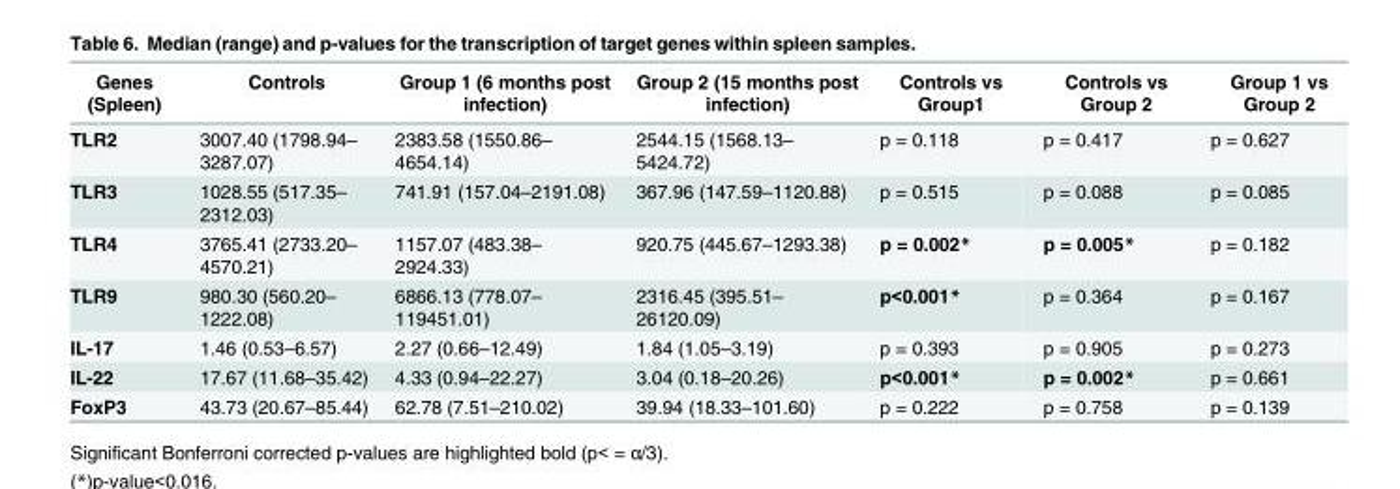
<table><thead><tr><td>Genes (Spleen)</td><td>Controls</td><td>Group 1 (6 months post infection)</td><td>Group 2 (15 months post infection)</td><td>Controls vs Group1</td><td>Controls vs Group 2</td><td>Group 1 vs Group 2</td></tr></thead><tbody><tr><td>TLR2</td><td>3007.40 (1798.94– 3287.07)</td><td>2383.58 (1550.86– 4654.14)</td><td>2544.15 (1568.13– 5424.72)</td><td>p = 0.118</td><td>p = 0.417</td><td>p = 0.627</td></tr><tr><td>TLR3</td><td>1028.55 (517.35– 2312.03)</td><td>741.91 (157.04–2191.08)</td><td>367.96 (147.59–1120.88)</td><td>p = 0.515</td><td>p = 0.088</td><td>p = 0.085</td></tr><tr><td>TLR4</td><td>3765.41 (2733.20– 4570.21)</td><td>1157.07 (483.38– 2924.33)</td><td>920.75 (445.67–1293.38)</td><td>p = 0.002*</td><td>p = 0.005*</td><td>p = 0.182</td></tr><tr><td>TLR9</td><td>980.30 (560.20– 1222.08)</td><td>6866.13 (778.07– 119451.01)</td><td>2316.45 (395.51– 26120.09)</td><td>p&lt;0.001*</td><td>p = 0.364</td><td>p = 0.167</td></tr><tr><td>IL-17</td><td>1.46 (0.53–6.57)</td><td>2.27 (0.66–12.49)</td><td>1.84 (1.05–3.19)</td><td>p = 0.393</td><td>p = 0.905</td><td>p = 0.273</td></tr><tr><td>IL-22</td><td>17.67 (11.68–35.42)</td><td>4.33 (0.94–22.27)</td><td>3.04 (0.18–20.26)</td><td>p&lt;0.001*</td><td>p = 0.002*</td><td>p = 0.661</td></tr><tr><td>FoxP3</td><td>43.73 (20.67–85.44)</td><td>62.78 (7.51–210.02)</td><td>39.94 (18.33–101.60)</td><td>p = 0.222</td><td>p = 0.758</td><td>p = 0.139</td></tr></tbody></table>